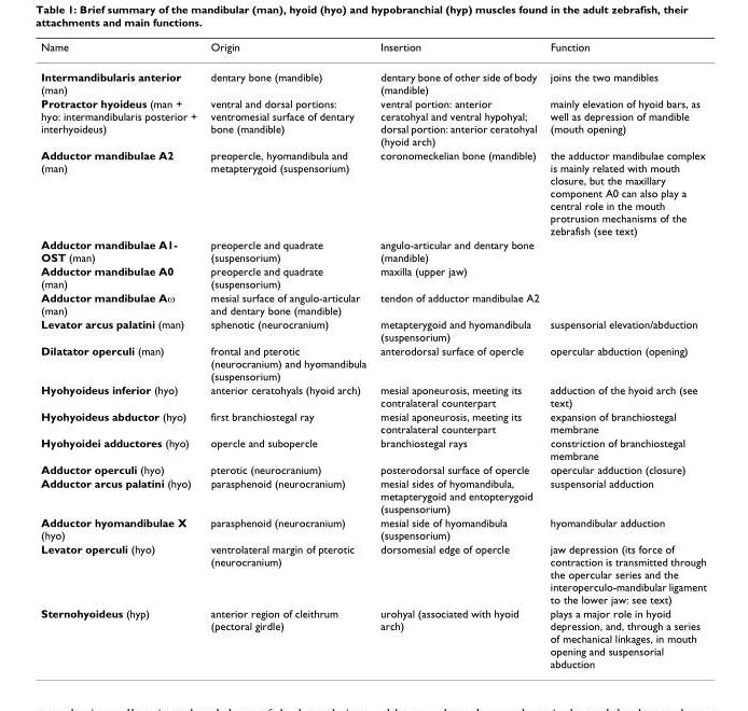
<table><thead><tr><td>Name</td><td>Origin</td><td>Insertion</td><td>Function</td></tr></thead><tbody><tr><td>Intermandibularis anterior (man)</td><td>dentary bone (mandible)</td><td>dentary bone of other side of body (mandible)</td><td>joins the two mandibles</td></tr><tr><td>Protractor hyoideus (man + hyo: intermandibularis posterior + interhyoideus)</td><td>ventral and dorsal portions: ventromesial surface of dentary bone (mandible)</td><td>ventral portion: anterior ceratohyal and ventral hypohyal; dorsal portion: anterior ceratohyal (hyoid arch)</td><td>mainly elevation of hyoid bars, as well as depression of mandible (mouth opening)</td></tr><tr><td>Adductor mandibulae A2 (man)</td><td>preopercle, hyomandibula and metapterygoid (suspensorium)</td><td>coronomeckelian bone (mandible)</td><td>the adductor mandibulae complex is mainly related with mouth closure, but the maxillary component A0 can also play a central role in the mouth protrusion mechanisms of the zebrafish (see text)</td></tr><tr><td>Adductor mandibulae A1- OST (man)</td><td>preopercle and quadrate (suspensorium)</td><td>angulo-articular and dentary bone (mandible)</td><td></td></tr><tr><td>Adductor mandibulae A0 (man)</td><td>preopercle and quadrate (suspensorium)</td><td>maxilla (upper jaw)</td><td></td></tr><tr><td>Adductor mandibulae Aω (man)</td><td>mesial surface of angulo-articular and dentary bone (mandible)</td><td>tendon of adductor mandibulae A2</td><td></td></tr><tr><td>Levator arcus palatini (man)</td><td>sphenotic (neurocranium)</td><td>metapterygoid and hyomandibula (suspensorium)</td><td>suspensorial elevation/abduction</td></tr><tr><td>Dilatator operculi (man)</td><td>frontal and pterotic (neurocranium) and hyomandibula (suspensorium)</td><td>anterodorsal surface of opercle</td><td>opercular abduction (opening)</td></tr><tr><td>Hyohyoideus inferior (hyo)</td><td>anterior ceratohyals (hyoid arch)</td><td>mesial aponeurosis, meeting its contralateral counterpart</td><td>adduction of the hyoid arch (see text)</td></tr><tr><td>Hyohyoideus abductor (hyo)</td><td>first branchiostegal ray</td><td>mesial aponeurosis, meeting its contralateral counterpart</td><td>expansion of branchiostegal membrane</td></tr><tr><td>Hyohyoidei adductores (hyo)</td><td>opercle and subopercle</td><td>branchiostegal rays</td><td>constriction of branchiostegal membrane</td></tr><tr><td>Adductor operculi (hyo)</td><td>pterotic (neurocranium)</td><td>posterodorsal surface of opercle</td><td>opercular adduction (closure)</td></tr><tr><td>Adductor arcus palatini (hyo)</td><td>parasphenoid (neurocranium)</td><td>mesial sides of hyomandibula, metapterygoid and entopterygoid (suspensorium)</td><td>suspensorial adduction</td></tr><tr><td>Adductor hyomandibulae X (hyo)</td><td>parasphenoid (neurocranium)</td><td>mesial side of hyomandibula (suspensorium)</td><td>hyomandibular adduction</td></tr><tr><td>Levator operculi (hyo)</td><td>ventrolateral margin of pterotic (neurocranium)</td><td>dorsomesial edge of opercle</td><td>jaw depression (its force of contraction is transmitted through the opercular series and the interoperculo-mandibular ligament to the lower jaw: see text)</td></tr><tr><td>Sternohyoideus (hyp)</td><td>anterior region of cleithrum (pectoral girdle)</td><td>urohyal (associated with hyoid arch)</td><td>plays a major role in hyoid depression, and, through a series of mechanical linkages, in mouth opening and suspensorial abduction</td></tr></tbody></table>